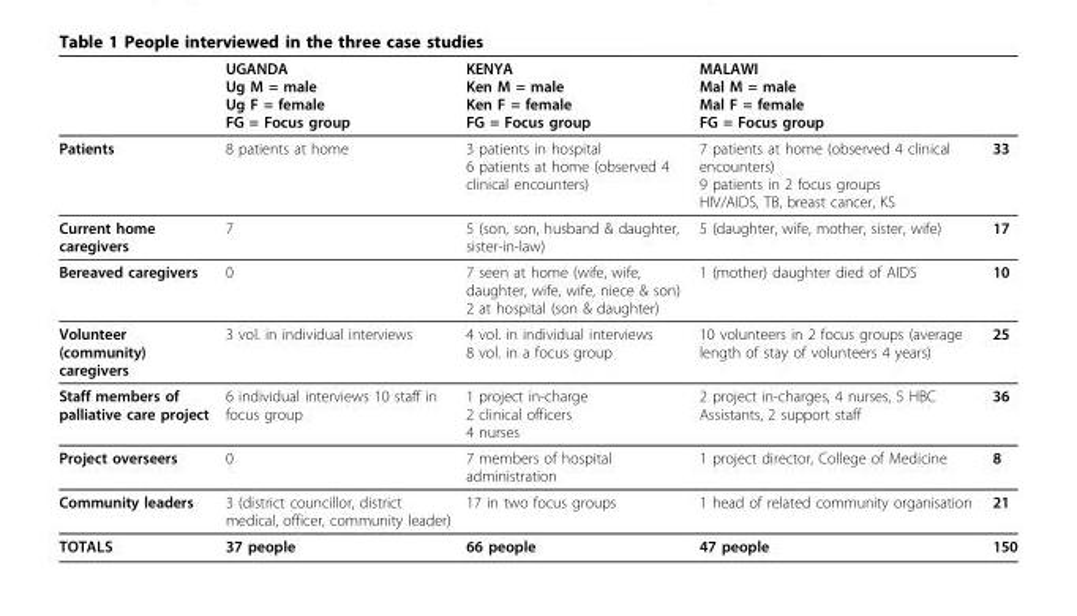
<table><thead><tr><td></td><td>UGANDA Ug M = male Ug F = female FG = Focus group</td><td>KENYA Ken M = male Ken F = female FG = Focus group</td><td>MALAWI Mal M = male Mal F = female FG = Focus group</td><td></td></tr></thead><tbody><tr><td>Patients</td><td>8 patients at home</td><td>3 patients in hospital 6 patients at home (observed 4 clinical encounters)</td><td>7 patients at home (observed 4 clinical encounters) 9 patients in 2 focus groups HIV/AIDS, TB, breast cancer, KS</td><td>33</td></tr><tr><td>Current home caregivers</td><td>7</td><td>5 (son, son, husband &amp; daughter, sister-in-law)</td><td>5 (daughter, wife, mother, sister, wife)</td><td>17</td></tr><tr><td>Bereaved caregivers</td><td>0</td><td>7 seen at home (wife, wife, daughter, wife, wife, niece &amp; son) 2 at hospital (son &amp; daughter)</td><td>1 (mother) daughter died of AIDS</td><td>10</td></tr><tr><td>Volunteer (community) caregivers</td><td>3 vol. in individual interviews</td><td>4 vol. in individual interviews 8 vol. in a focus group</td><td>10 volunteers in 2 focus groups (average length of stay of volunteers 4 years)</td><td>25</td></tr><tr><td>Staff members of palliative care project</td><td>6 individual interviews 10 staff in focus group</td><td>1 project in-charge 2 clinical officers 4 nurses</td><td>2 project in-charges, 4 nurses, 5 HBC Assistants, 2 support staff</td><td>36</td></tr><tr><td>Project overseers</td><td>0</td><td>7 members of hospital administration</td><td>1 project director, College of Medicine</td><td>8</td></tr><tr><td>Community leaders</td><td>3 (district councillor, district medical, officer, community leader)</td><td>17 in two focus groups</td><td>1 head of related community organisation</td><td>21</td></tr><tr><td>TOTALS</td><td>37 people</td><td>66 people</td><td>47 people</td><td>150</td></tr></tbody></table>